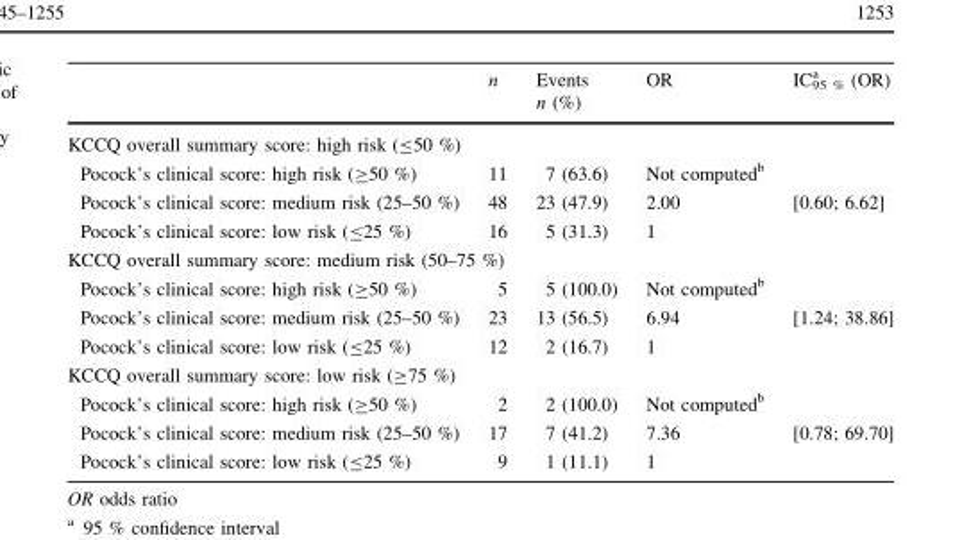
<table><thead><tr><td></td><td>n</td><td>Events n (%)</td><td>OR</td><td>IC<sub>95 %</sub> <sup>a</sup> (OR)</td></tr></thead><tbody><tr><td colspan="5">KCCQ overall summary score: high risk (≤50 %)</td></tr><tr><td>Pocock’s clinical score: high risk (≥50 %)</td><td>11</td><td>7 (63.6)</td><td>Not computed<sup>b</sup></td><td></td></tr><tr><td>Pocock’s clinical score: medium risk (25–50 %)</td><td>48</td><td>23 (47.9)</td><td>2.00</td><td>[0.60; 6.62]</td></tr><tr><td>Pocock’s clinical score: low risk (≤25 %)</td><td>16</td><td>5 (31.3)</td><td>1</td><td></td></tr><tr><td colspan="5">KCCQ overall summary score: medium risk (50–75 %)</td></tr><tr><td>Pocock’s clinical score: high risk (≥50 %)</td><td>5</td><td>5 (100.0)</td><td>Not computed<sup>b</sup></td><td></td></tr><tr><td>Pocock’s clinical score: medium risk (25–50 %)</td><td>23</td><td>13 (56.5)</td><td>6.94</td><td>[1.24; 38.86]</td></tr><tr><td>Pocock’s clinical score: low risk (≤25 %)</td><td>12</td><td>2 (16.7)</td><td>1</td><td></td></tr><tr><td colspan="5">KCCQ overall summary score: low risk (≥75 %)</td></tr><tr><td>Pocock’s clinical score: high risk (≥50 %)</td><td>2</td><td>2 (100.0)</td><td>Not computed<sup>b</sup></td><td></td></tr><tr><td>Pocock’s clinical score: medium risk (25–50 %)</td><td>17</td><td>7 (41.2)</td><td>7.36</td><td>[0.78; 69.70]</td></tr><tr><td>Pocock’s clinical score: low risk (≤25 %)</td><td>9</td><td>1 (11.1)</td><td>1</td><td></td></tr></tbody></table>